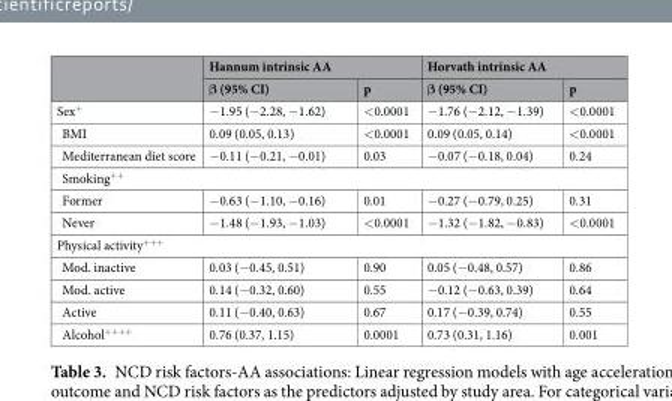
<table><thead><tr><td rowspan="2"></td><td colspan="2">Hannum intrinsic AA</td><td colspan="2">Horvath intrinsic AA</td></tr><tr><td>β (95% CI)</td><td>p</td><td>β (95% CI)</td><td>p</td></tr></thead><tbody><tr><td>Sex<sup>+</sup></td><td>−1.95 (−2.28, −1.62)</td><td>&lt;0.0001</td><td>−1.76 (−2.12, −1.39)</td><td>&lt;0.0001</td></tr><tr><td>BMI</td><td>0.09 (0.05, 0.13)</td><td>&lt;0.0001</td><td>0.09 (0.05, 0.14)</td><td>&lt;0.0001</td></tr><tr><td>Mediterranean diet score</td><td>−0.11 (−0.21, −0.01)</td><td>0.03</td><td>−0.07 (−0.18, 0.04)</td><td>0.24</td></tr><tr><td colspan="5">Smoking<sup>++</sup></td></tr><tr><td>Former</td><td>−0.63 (−1.10, −0.16)</td><td>0.01</td><td>−0.27 (−0.79, 0.25)</td><td>0.31</td></tr><tr><td>Never</td><td>−1.48 (−1.93, −1.03)</td><td>&lt;0.0001</td><td>−1.32 (−1.82, −0.83)</td><td>&lt;0.0001</td></tr><tr><td colspan="5">Physical activity<sup>+++</sup></td></tr><tr><td>Mod. inactive</td><td>0.03 (−0.45, 0.51)</td><td>0.90</td><td>0.05 (−0.48, 0.57)</td><td>0.86</td></tr><tr><td>Mod. active</td><td>0.14 (−0.32, 0.60)</td><td>0.55</td><td>−0.12 (−0.63, 0.39)</td><td>0.64</td></tr><tr><td>Active</td><td>0.11 (−0.40, 0.63)</td><td>0.67</td><td>0.17 (−0.39, 0.74)</td><td>0.55</td></tr><tr><td>Alcohol<sup>++++</sup></td><td>0.76 (0.37, 1.15)</td><td>0.0001</td><td>0.73 (0.31, 1.16)</td><td>0.001</td></tr></tbody></table>